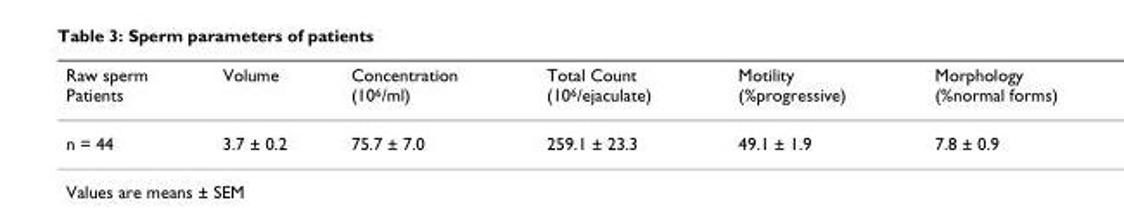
<table><thead><tr><td>Raw sperm Patients</td><td>Volume</td><td>Concentration (10<sup>6</sup>/ml)</td><td>Total Count (10<sup>6</sup>/ejaculate)</td><td>Motility (%progressive)</td><td>Morphology (%normal forms)</td></tr></thead><tbody><tr><td>n = 44</td><td>3.7 ± 0.2</td><td>75.7 ± 7.0</td><td>259.1 ± 23.3</td><td>49.1 ± 1.9</td><td>7.8 ± 0.9</td></tr></tbody></table>